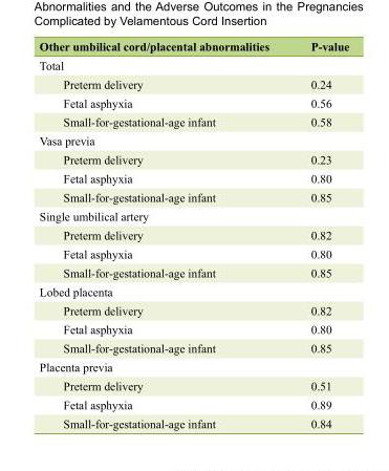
<table><thead><tr><td>Other umbilical cord/placental abnormalities</td><td>P-value</td></tr></thead><tbody><tr><td colspan="2">Total</td></tr><tr><td>Preterm delivery</td><td>0.24</td></tr><tr><td>Fetal asphyxia</td><td>0.56</td></tr><tr><td>Small-for-gestational-age infant</td><td>0.58</td></tr><tr><td colspan="2">Vasa previa</td></tr><tr><td>Preterm delivery</td><td>0.23</td></tr><tr><td>Fetal asphyxia</td><td>0.80</td></tr><tr><td>Small-for-gestational-age infant</td><td>0.85</td></tr><tr><td colspan="2">Single umbilical artery</td></tr><tr><td>Preterm delivery</td><td>0.82</td></tr><tr><td>Fetal asphyxia</td><td>0.80</td></tr><tr><td>Small-for-gestational-age infant</td><td>0.85</td></tr><tr><td colspan="2">Lobed placenta</td></tr><tr><td>Preterm delivery</td><td>0.82</td></tr><tr><td>Fetal asphyxia</td><td>0.80</td></tr><tr><td>Small-for-gestational-age infant</td><td>0.85</td></tr><tr><td colspan="2">Placenta previa</td></tr><tr><td>Preterm delivery</td><td>0.51</td></tr><tr><td>Fetal asphyxia</td><td>0.89</td></tr><tr><td>Small-for-gestational-age infant</td><td>0.84</td></tr></tbody></table>